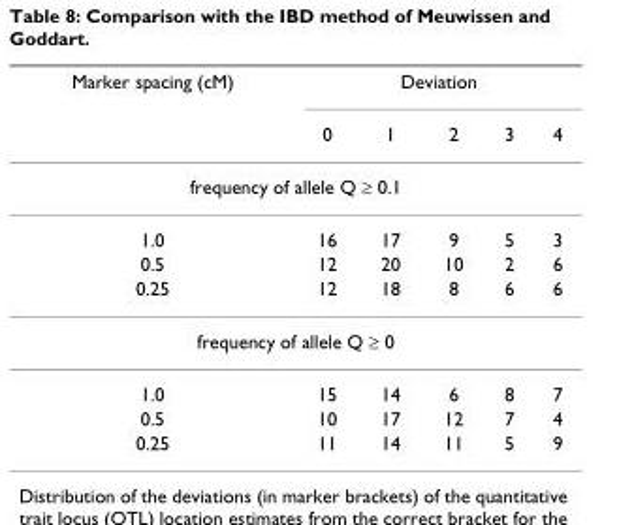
<table><thead><tr><td rowspan="2">Marker spacing (cM)</td><td colspan="5">Deviation</td></tr><tr><td>0</td><td>1</td><td>2</td><td>3</td><td>4</td></tr></thead><tbody><tr><td colspan="6">frequency of allele Q ≥ 0.1</td></tr><tr><td>1.0</td><td>16</td><td>17</td><td>9</td><td>5</td><td>3</td></tr><tr><td>0.5</td><td>12</td><td>20</td><td>10</td><td>2</td><td>6</td></tr><tr><td>0.25</td><td>12</td><td>18</td><td>8</td><td>6</td><td>6</td></tr><tr><td colspan="6">frequency of allele Q ≥ 0</td></tr><tr><td>1.0</td><td>15</td><td>14</td><td>6</td><td>8</td><td>7</td></tr><tr><td>0.5</td><td>10</td><td>17</td><td>12</td><td>7</td><td>4</td></tr><tr><td>0.25</td><td>11</td><td>14</td><td>11</td><td>5</td><td>9</td></tr></tbody></table>